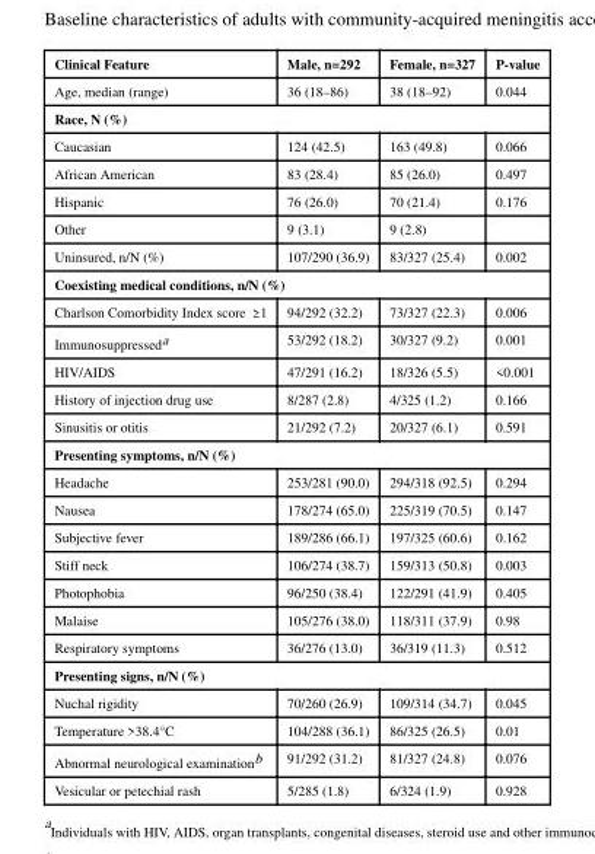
<table><thead><tr><td>Clinical Feature</td><td>Male, n=292</td><td>Female, n=327</td><td>P-value</td></tr></thead><tbody><tr><td>Age, median (range)</td><td>36 (18–86)</td><td>38 (18–92)</td><td>0.044</td></tr><tr><td colspan="4">Race, N (%)</td></tr><tr><td>Caucasian</td><td>124 (42.5)</td><td>163 (49.8)</td><td>0.066</td></tr><tr><td>African American</td><td>83 (28.4)</td><td>85 (26.0)</td><td>0.497</td></tr><tr><td>Hispanic</td><td>76 (26.0)</td><td>70 (21.4)</td><td>0.176</td></tr><tr><td>Other</td><td>9 (3.1)</td><td>9 (2.8)</td><td></td></tr><tr><td>Uninsured, n/N (%)</td><td>107/290 (36.9)</td><td>83/327 (25.4)</td><td>0.002</td></tr><tr><td colspan="4">Coexisting medical conditions, n/N (%)</td></tr><tr><td>Charlson Comorbidity Index score ≥ 1</td><td>94/292 (32.2)</td><td>73/327 (22.3)</td><td>0.006</td></tr><tr><td>Immunosuppressed<sup>a</sup></td><td>53/292 (18.2)</td><td>30/327 (9.2)</td><td>0.001</td></tr><tr><td>HIV/AIDS</td><td>47/291 (16.2)</td><td>18/326 (5.5)</td><td>&lt;0.001</td></tr><tr><td>History of injection drug use</td><td>8/287 (2.8)</td><td>4/325 (1.2)</td><td>0.166</td></tr><tr><td>Sinusitis or otitis</td><td>21/292 (7.2)</td><td>20/327 (6.1)</td><td>0.591</td></tr><tr><td colspan="4">Presenting symptoms, n/N (%)</td></tr><tr><td>Headache</td><td>253/281 (90.0)</td><td>294/318 (92.5)</td><td>0.294</td></tr><tr><td>Nausea</td><td>178/274 (65.0)</td><td>225/319 (70.5)</td><td>0.147</td></tr><tr><td>Subjective fever</td><td>189/286 (66.1)</td><td>197/325 (60.6)</td><td>0.162</td></tr><tr><td>Stiff neck</td><td>106/274 (38.7)</td><td>159/313 (50.8)</td><td>0.003</td></tr><tr><td>Photophobia</td><td>96/250 (38.4)</td><td>122/291 (41.9)</td><td>0.405</td></tr><tr><td>Malaise</td><td>105/276 (38.0)</td><td>118/311 (37.9)</td><td>0.98</td></tr><tr><td>Respiratory symptoms</td><td>36/276 (13.0)</td><td>36/319 (11.3)</td><td>0.512</td></tr><tr><td colspan="4">Presenting signs, n/N (%)</td></tr><tr><td>Nuchal rigidity</td><td>70/260 (26.9)</td><td>109/314 (34.7)</td><td>0.045</td></tr><tr><td>Temperature &gt;38.4°C</td><td>104/288 (36.1)</td><td>86/325 (26.5)</td><td>0.01</td></tr><tr><td>Abnormal neurological examination<sup>b</sup></td><td>91/292 (31.2)</td><td>81/327 (24.8)</td><td>0.076</td></tr><tr><td>Vesicular or petechial rash</td><td>5/285 (1.8)</td><td>6/324 (1.9)</td><td>0.928</td></tr></tbody></table>